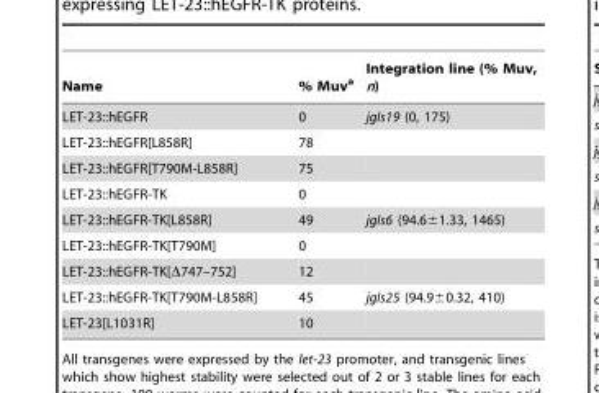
<table><thead><tr><td>Name</td><td>% Muv<sup>a</sup></td><td>Integration line (% Muv, n)</td></tr></thead><tbody><tr><td>LET-23::hEGFR</td><td>0</td><td>jgIs19 (0, 175)</td></tr><tr><td>LET-23::hEGFR[L858R]</td><td>78</td><td></td></tr><tr><td>LET-23::hEGFR[T790M-L858R]</td><td>75</td><td></td></tr><tr><td>LET-23::hEGFR-TK</td><td>0</td><td></td></tr><tr><td>LET-23::hEGFR-TK[L858R]</td><td>49</td><td>jgIs6 (94.6±1.33, 1465)</td></tr><tr><td>LET-23::hEGFR-TK[T790M]</td><td>0</td><td></td></tr><tr><td>LET-23::hEGFR-TK[Δ747–752]</td><td>12</td><td></td></tr><tr><td>LET-23::hEGFR-TK[T790M-L858R]</td><td>45</td><td>jgIs25 (94.9±0.32, 410)</td></tr><tr><td>LET-23[L1031R]</td><td>10</td><td></td></tr></tbody></table>